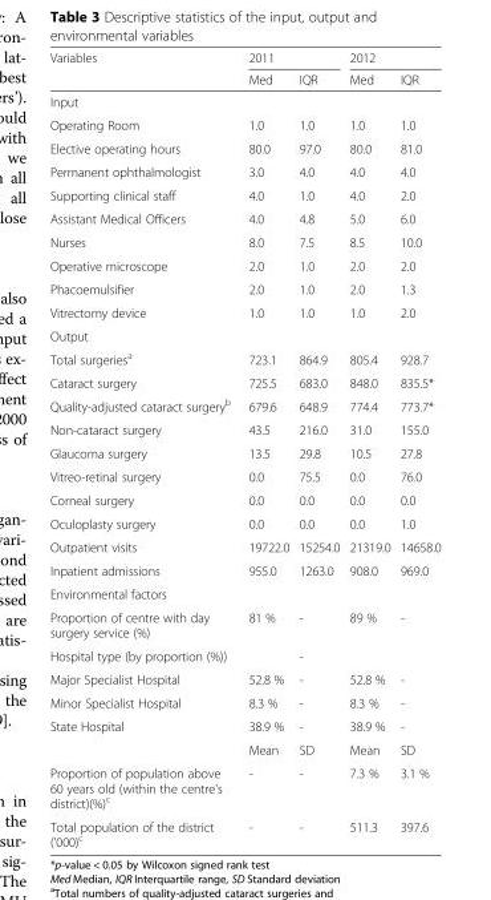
<table><thead><tr><td rowspan="2">Variables</td><td colspan="2">2011</td><td colspan="2">2012</td></tr><tr><td>Med</td><td>IQR</td><td>Med</td><td>IQR</td></tr></thead><tbody><tr><td colspan="5">Input</td></tr><tr><td>Operating Room</td><td>1.0</td><td>1.0</td><td>1.0</td><td>1.0</td></tr><tr><td>Elective operating hours</td><td>80.0</td><td>97.0</td><td>80.0</td><td>81.0</td></tr><tr><td>Permanent ophthalmologist</td><td>3.0</td><td>4.0</td><td>4.0</td><td>4.0</td></tr><tr><td>Supporting clinical staff</td><td>4.0</td><td>1.0</td><td>4.0</td><td>2.0</td></tr><tr><td>Assistant Medical Officers</td><td>4.0</td><td>4.8</td><td>5.0</td><td>6.0</td></tr><tr><td>Nurses</td><td>8.0</td><td>7.5</td><td>8.5</td><td>10.0</td></tr><tr><td>Operative microscope</td><td>2.0</td><td>1.0</td><td>2.0</td><td>2.0</td></tr><tr><td>Phacoemulsifier</td><td>2.0</td><td>1.0</td><td>2.0</td><td>1.3</td></tr><tr><td>Vitrectomy device</td><td>1.0</td><td>1.0</td><td>1.0</td><td>2.0</td></tr><tr><td colspan="5">Output</td></tr><tr><td>Total surgeries<sup>a</sup></td><td>723.1</td><td>864.9</td><td>805.4</td><td>928.7</td></tr><tr><td>Cataract surgery</td><td>725.5</td><td>683.0</td><td>848.0</td><td>835.5*</td></tr><tr><td>Quality-adjusted cataract surgery<sup>b</sup></td><td>679.6</td><td>648.9</td><td>774.4</td><td>773.7*</td></tr><tr><td>Non-cataract surgery</td><td>43.5</td><td>216.0</td><td>31.0</td><td>155.0</td></tr><tr><td>Glaucoma surgery</td><td>13.5</td><td>29.8</td><td>10.5</td><td>27.8</td></tr><tr><td>Vitreo-retinal surgery</td><td>0.0</td><td>75.5</td><td>0.0</td><td>76.0</td></tr><tr><td>Corneal surgery</td><td>0.0</td><td>0.0</td><td>0.0</td><td>0.0</td></tr><tr><td>Oculoplasty surgery</td><td>0.0</td><td>0.0</td><td>0.0</td><td>1.0</td></tr><tr><td>Outpatient visits</td><td>19722.0</td><td>15254.0</td><td>21319.0</td><td>14658.0</td></tr><tr><td>Inpatient admissions</td><td>955.0</td><td>1263.0</td><td>908.0</td><td>969.0</td></tr><tr><td colspan="5">Environmental factors</td></tr><tr><td>Proportion of centre with day surgery service (%)</td><td>81 %</td><td>-</td><td>89 %</td><td>-</td></tr><tr><td>Hospital type (by proportion (%))</td><td></td><td>-</td><td></td><td></td></tr><tr><td>Major Specialist Hospital</td><td>52.8 %</td><td>-</td><td>52.8 %</td><td>-</td></tr><tr><td>Minor Specialist Hospital</td><td>8.3 %</td><td>-</td><td>8.3 %</td><td>-</td></tr><tr><td rowspan="2">State Hospital</td><td>38.9 %</td><td>-</td><td>38.9 %</td><td>-</td></tr><tr><td>Mean</td><td>SD</td><td>Mean</td><td>SD</td></tr><tr><td>Proportion of population above 60 years old (within the centre&#x27;s district)(%)<sup>c</sup></td><td>-</td><td>-</td><td>7.3 %</td><td>3.1 %</td></tr><tr><td>Total population of the district (&#x27;000)<sup>c</sup></td><td>-</td><td>-</td><td>511.3</td><td>397.6</td></tr></tbody></table>